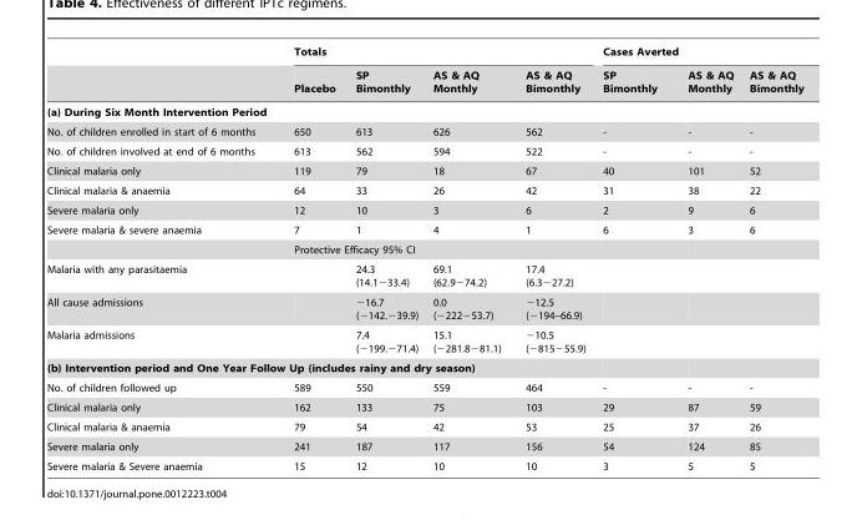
<table><thead><tr><td rowspan="2"></td><td colspan="4">Totals</td><td colspan="3">Cases Averted</td></tr><tr><td>Placebo</td><td>SP Bimonthly</td><td>AS &amp; AQ Monthly</td><td>AS &amp; AQ Bimonthly</td><td>SP Bimonthly</td><td>AS &amp; AQ Monthly</td><td>AS &amp; AQ Bimonthly</td></tr></thead><tbody><tr><td colspan="8">(a) During Six Month Intervention Period</td></tr><tr><td>No. of children enrolled in start of 6 months</td><td>650</td><td>613</td><td>626</td><td>562</td><td>-</td><td>-</td><td>-</td></tr><tr><td>No. of children involved at end of 6 months</td><td>613</td><td>562</td><td>594</td><td>522</td><td>-</td><td>-</td><td>-</td></tr><tr><td>Clinical malaria only</td><td>119</td><td>79</td><td>18</td><td>67</td><td>40</td><td>101</td><td>52</td></tr><tr><td>Clinical malaria &amp; anaemia</td><td>64</td><td>33</td><td>26</td><td>42</td><td>31</td><td>38</td><td>22</td></tr><tr><td>Severe malaria only</td><td>12</td><td>10</td><td>3</td><td>6</td><td>2</td><td>9</td><td>6</td></tr><tr><td rowspan="2">Severe malaria &amp; severe anaemia</td><td>7</td><td>1</td><td>4</td><td>1</td><td>6</td><td>3</td><td>6</td></tr><tr><td colspan="3">Protective Efficacy 95% CI</td><td></td><td></td><td></td><td></td></tr><tr><td>Malaria with any parasitaemia</td><td></td><td>24.3 (14.1−33.4)</td><td>69.1 (62.9−74.2)</td><td>17.4 (6.3−27.2)</td><td></td><td></td><td></td></tr><tr><td>All cause admissions</td><td></td><td>−16.7 (−142.−39.9)</td><td>0.0 (−222−53.7)</td><td>−12.5 (−194–66.9)</td><td></td><td></td><td></td></tr><tr><td>Malaria admissions</td><td></td><td>7.4 (−199.−71.4)</td><td>15.1 (−281.8−81.1)</td><td>−10.5 (−815−55.9)</td><td></td><td></td><td></td></tr><tr><td colspan="8">(b) Intervention period and One Year Follow Up (includes rainy and dry season)</td></tr><tr><td>No. of children followed up</td><td>589</td><td>550</td><td>559</td><td>464</td><td>-</td><td>-</td><td>-</td></tr><tr><td>Clinical malaria only</td><td>162</td><td>133</td><td>75</td><td>103</td><td>29</td><td>87</td><td>59</td></tr><tr><td>Clinical malaria &amp; anaemia</td><td>79</td><td>54</td><td>42</td><td>53</td><td>25</td><td>37</td><td>26</td></tr><tr><td>Severe malaria only</td><td>241</td><td>187</td><td>117</td><td>156</td><td>54</td><td>124</td><td>85</td></tr><tr><td>Severe malaria &amp; Severe anaemia</td><td>15</td><td>12</td><td>10</td><td>10</td><td>3</td><td>5</td><td>5</td></tr></tbody></table>